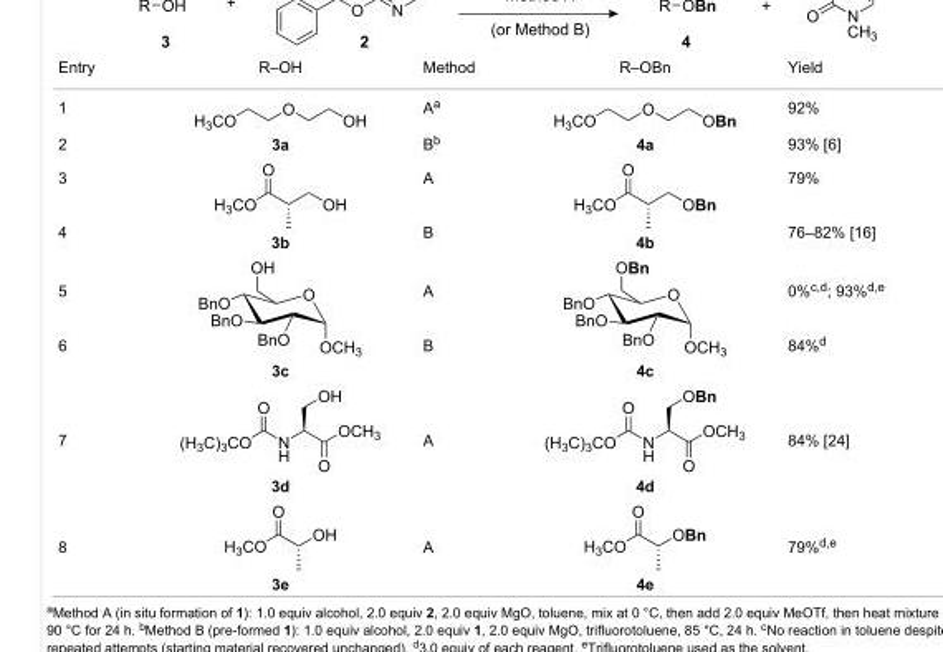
<table><tbody><tr><td>Entry</td><td>R–OH</td><td>Method</td><td>R–OBn</td><td>Yield</td></tr><tr><td>1 2</td><td>3a</td><td>A<sup>a</sup> B<sup>b</sup></td><td>4a</td><td>92% 93% [6]</td></tr><tr><td>3 4</td><td>3b</td><td>A B</td><td>4b</td><td>79% 76–82% [16]</td></tr><tr><td>5 6</td><td>3c</td><td>A B</td><td>4c</td><td>0%<sup>c,d</sup>; 93%<sup>d,e</sup> 84%<sup>d</sup></td></tr><tr><td>7</td><td>3d</td><td>A</td><td>4d</td><td>84% [24]</td></tr><tr><td>8</td><td>3e</td><td>A</td><td>4e</td><td>79%<sup>d,e</sup></td></tr></tbody></table>